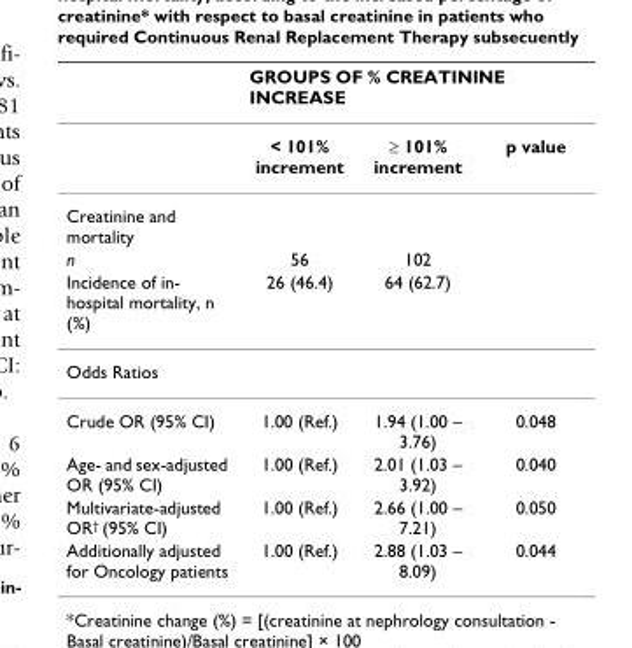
<table><thead><tr><td rowspan="2"></td><td colspan="3">GROUPS OF % CREATININE INCREASE</td></tr><tr><td>&lt; 101% increment</td><td>≥ 101% increment</td><td>p value</td></tr></thead><tbody><tr><td colspan="4">Creatinine and mortality</td></tr><tr><td>n</td><td>56</td><td>102</td><td></td></tr><tr><td>Incidence of in- hospital mortality, n (%)</td><td>26 (46.4)</td><td>64 (62.7)</td><td></td></tr><tr><td colspan="4">Odds Ratios</td></tr><tr><td>Crude OR (95% CI)</td><td>1.00 (Ref.)</td><td>1.94 (1.00 – 3.76)</td><td>0.048</td></tr><tr><td>Age- and sex-adjusted OR (95% CI)</td><td>1.00 (Ref.)</td><td>2.01 (1.03 – 3.92)</td><td>0.040</td></tr><tr><td>Multivariate-adjusted OR<sup>†</sup> (95% CI)</td><td>1.00 (Ref.)</td><td>2.66 (1.00 – 7.21)</td><td>0.050</td></tr><tr><td>Additionally adjusted for Oncology patients</td><td>1.00 (Ref.)</td><td>2.88 (1.03 – 8.09)</td><td>0.044</td></tr></tbody></table>